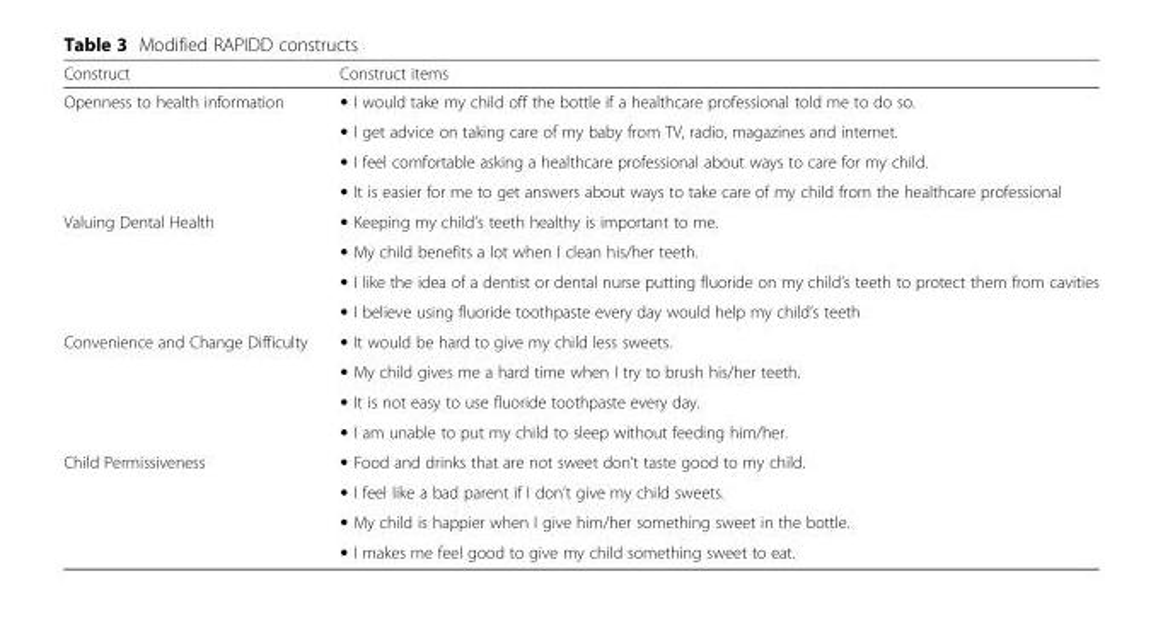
<table><thead><tr><td>Construct</td><td>Construct items</td></tr></thead><tbody><tr><td rowspan="4">Openness to health information</td><td>• I would take my child off the bottle if a healthcare professional told me to do so.</td></tr><tr><td>• I get advice on taking care of my baby from TV, radio, magazines and internet.</td></tr><tr><td>• I feel comfortable asking a healthcare professional about ways to care for my child.</td></tr><tr><td>• It is easier for me to get answers about ways to take care of my child from the healthcare professional</td></tr><tr><td rowspan="4">Valuing Dental Health</td><td>• Keeping my child’s teeth healthy is important to me.</td></tr><tr><td>• My child benefits a lot when I clean his/her teeth.</td></tr><tr><td>• I like the idea of a dentist or dental nurse putting fluoride on my child’s teeth to protect them from cavities</td></tr><tr><td>• I believe using fluoride toothpaste every day would help my child’s teeth</td></tr><tr><td rowspan="4">Convenience and Change Difficulty</td><td>• It would be hard to give my child less sweets.</td></tr><tr><td>• My child gives me a hard time when I try to brush his/her teeth.</td></tr><tr><td>• It is not easy to use fluoride toothpaste every day.</td></tr><tr><td>• I am unable to put my child to sleep without feeding him/her.</td></tr><tr><td rowspan="4">Child Permissiveness</td><td>• Food and drinks that are not sweet don’t taste good to my child.</td></tr><tr><td>• I feel like a bad parent if I don’t give my child sweets.</td></tr><tr><td>• My child is happier when I give him/her something sweet in the bottle.</td></tr><tr><td>• I makes me feel good to give my child something sweet to eat.</td></tr></tbody></table>